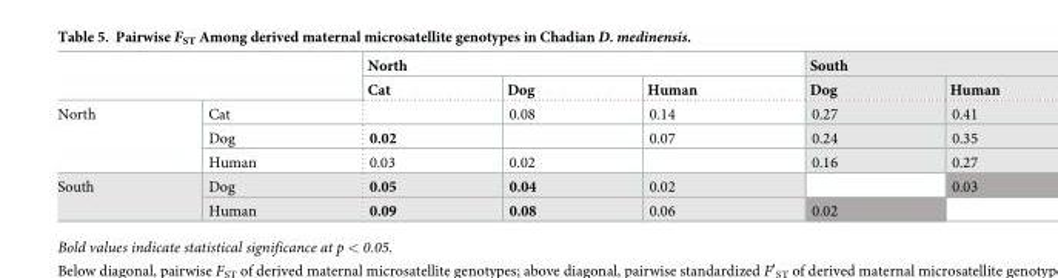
<table><thead><tr><td rowspan="2"></td><td rowspan="2"></td><td colspan="3">North</td><td colspan="2">South</td></tr><tr><td>Cat</td><td>Dog</td><td>Human</td><td>Dog</td><td>Human</td></tr></thead><tbody><tr><td rowspan="3">North</td><td>Cat</td><td></td><td>0.08</td><td>0.14</td><td>0.27</td><td>0.41</td></tr><tr><td>Dog</td><td>0.02</td><td></td><td>0.07</td><td>0.24</td><td>0.35</td></tr><tr><td>Human</td><td>0.03</td><td>0.02</td><td></td><td>0.16</td><td>0.27</td></tr><tr><td rowspan="2">South</td><td>Dog</td><td>0.05</td><td>0.04</td><td>0.02</td><td></td><td>0.03</td></tr><tr><td>Human</td><td>0.09</td><td>0.08</td><td>0.06</td><td>0.02</td><td></td></tr></tbody></table>